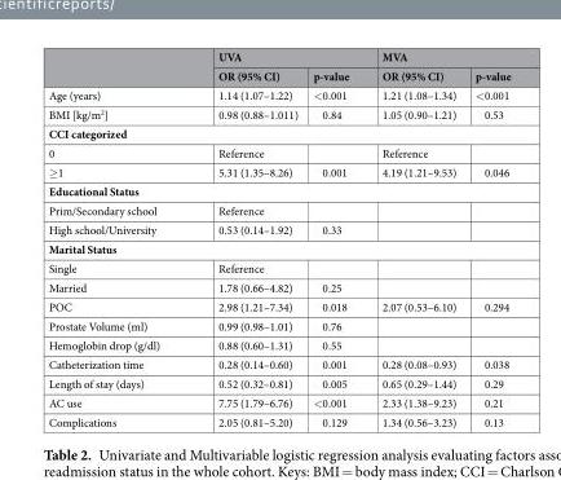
<table><thead><tr><td rowspan="2"></td><td colspan="2">UVA</td><td colspan="2">MVA</td></tr><tr><td>OR (95% CI)</td><td>p-value</td><td>OR (95% CI)</td><td>p-value</td></tr></thead><tbody><tr><td>Age (years)</td><td>1.14 (1.07–1.22)</td><td>&lt;0.001</td><td>1.21 (1.08–1.34)</td><td>&lt;0.001</td></tr><tr><td>BMI [kg/m<sup>2</sup>]</td><td>0.98 (0.88–1.011)</td><td>0.84</td><td>1.05 (0.90–1.21)</td><td>0.53</td></tr><tr><td colspan="5">CCI categorized</td></tr><tr><td>0</td><td>Reference</td><td></td><td>Reference</td><td></td></tr><tr><td>≥1</td><td>5.31 (1.35–8.26)</td><td>0.001</td><td>4.19 (1.21–9.53)</td><td>0.046</td></tr><tr><td colspan="5">Educational Status</td></tr><tr><td>Prim/Secondary school</td><td>Reference</td><td></td><td></td><td></td></tr><tr><td>High school/University</td><td>0.53 (0.14–1.92)</td><td>0.33</td><td></td><td></td></tr><tr><td colspan="5">Marital Status</td></tr><tr><td>Single</td><td>Reference</td><td></td><td></td><td></td></tr><tr><td>Married</td><td>1.78 (0.66–4.82)</td><td>0.25</td><td></td><td></td></tr><tr><td>POC</td><td>2.98 (1.21–7.34)</td><td>0.018</td><td>2.07 (0.53–6.10)</td><td>0.294</td></tr><tr><td>Prostate Volume (ml)</td><td>0.99 (0.98–1.01)</td><td>0.76</td><td></td><td></td></tr><tr><td>Hemoglobin drop (g/dl)</td><td>0.88 (0.60–1.31)</td><td>0.55</td><td></td><td></td></tr><tr><td>Catheterization time</td><td>0.28 (0.14–0.60)</td><td>0.001</td><td>0.28 (0.08–0.93)</td><td>0.038</td></tr><tr><td>Length of stay (days)</td><td>0.52 (0.32–0.81)</td><td>0.005</td><td>0.65 (0.29–1.44)</td><td>0.29</td></tr><tr><td>AC use</td><td>7.75 (1.79–6.76)</td><td>&lt;0.001</td><td>2.33 (1.38–9.23)</td><td>0.21</td></tr><tr><td>Complications</td><td>2.05 (0.81–5.20)</td><td>0.129</td><td>1.34 (0.56–3.23)</td><td>0.13</td></tr></tbody></table>